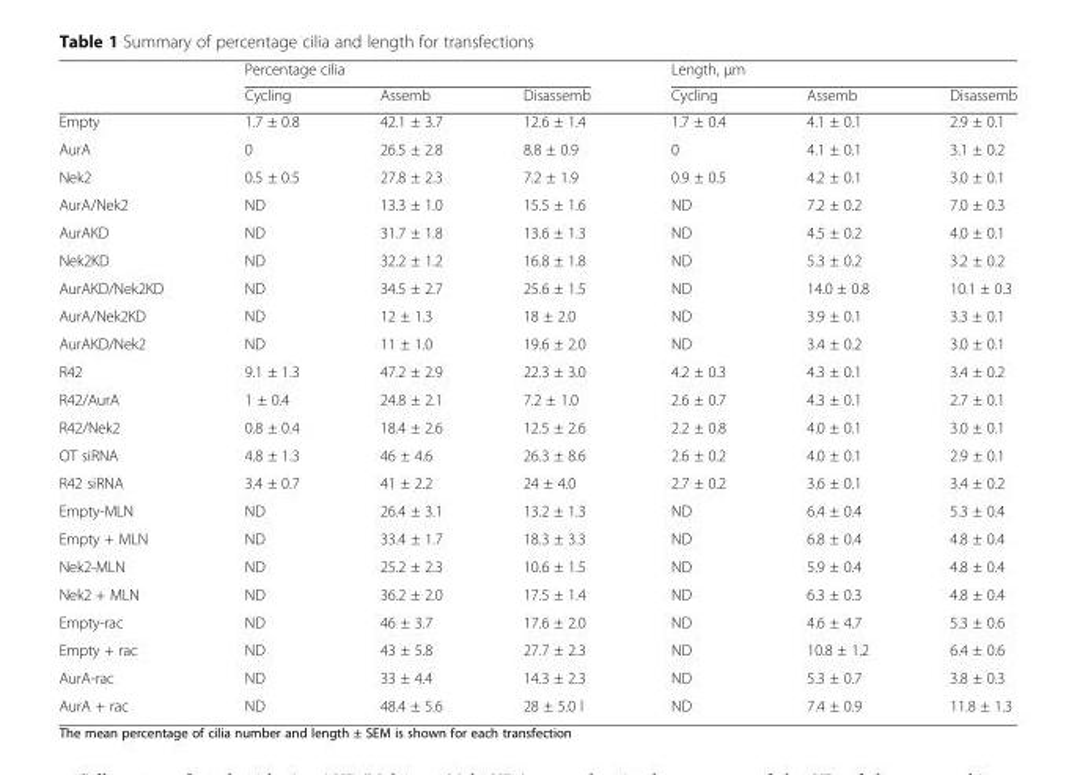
<table><thead><tr><td rowspan="2"></td><td colspan="3">Percentage cilia</td><td colspan="3">Length, μm</td></tr><tr><td>Cycling</td><td>Assemb</td><td>Disassemb</td><td>Cycling</td><td>Assemb</td><td>Disassemb</td></tr></thead><tbody><tr><td>Empty</td><td>1.7 ± 0.8</td><td>42.1 ± 3.7</td><td>12.6 ± 1.4</td><td>1.7 ± 0.4</td><td>4.1 ± 0.1</td><td>2.9 ± 0.1</td></tr><tr><td>AurA</td><td>0</td><td>26.5 ± 2.8</td><td>8.8 ± 0.9</td><td>0</td><td>4.1 ± 0.1</td><td>3.1 ± 0.2</td></tr><tr><td>Nek2</td><td>0.5 ± 0.5</td><td>27.8 ± 2.3</td><td>7.2 ± 1.9</td><td>0.9 ± 0.5</td><td>4.2 ± 0.1</td><td>3.0 ± 0.1</td></tr><tr><td>AurA/Nek2</td><td>ND</td><td>13.3 ± 1.0</td><td>15.5 ± 1.6</td><td>ND</td><td>7.2 ± 0.2</td><td>7.0 ± 0.3</td></tr><tr><td>AurAKD</td><td>ND</td><td>31.7 ± 1.8</td><td>13.6 ± 1.3</td><td>ND</td><td>4.5 ± 0.2</td><td>4.0 ± 0.1</td></tr><tr><td>Nek2KD</td><td>ND</td><td>32.2 ± 1.2</td><td>16.8 ± 1.8</td><td>ND</td><td>5.3 ± 0.2</td><td>3.2 ± 0.2</td></tr><tr><td>AurAKD/Nek2KD</td><td>ND</td><td>34.5 ± 2.7</td><td>25.6 ± 1.5</td><td>ND</td><td>14.0 ± 0.8</td><td>10.1 ± 0.3</td></tr><tr><td>AurA/Nek2KD</td><td>ND</td><td>12 ± 1.3</td><td>18 ± 2.0</td><td>ND</td><td>3.9 ± 0.1</td><td>3.3 ± 0.1</td></tr><tr><td>AurAKD/Nek2</td><td>ND</td><td>11 ± 1.0</td><td>19.6 ± 2.0</td><td>ND</td><td>3.4 ± 0.2</td><td>3.0 ± 0.1</td></tr><tr><td>R42</td><td>9.1 ± 1.3</td><td>47.2 ± 2.9</td><td>22.3 ± 3.0</td><td>4.2 ± 0.3</td><td>4.3 ± 0.1</td><td>3.4 ± 0.2</td></tr><tr><td>R42/AurA</td><td>1 ± 0.4</td><td>24.8 ± 2.1</td><td>7.2 ± 1.0</td><td>2.6 ± 0.7</td><td>4.3 ± 0.1</td><td>2.7 ± 0.1</td></tr><tr><td>R42/Nek2</td><td>0.8 ± 0.4</td><td>18.4 ± 2.6</td><td>12.5 ± 2.6</td><td>2.2 ± 0.8</td><td>4.0 ± 0.1</td><td>3.0 ± 0.1</td></tr><tr><td>OT siRNA</td><td>4.8 ± 1.3</td><td>46 ± 4.6</td><td>26.3 ± 8.6</td><td>2.6 ± 0.2</td><td>4.0 ± 0.1</td><td>2.9 ± 0.1</td></tr><tr><td>R42 siRNA</td><td>3.4 ± 0.7</td><td>41 ± 2.2</td><td>24 ± 4.0</td><td>2.7 ± 0.2</td><td>3.6 ± 0.1</td><td>3.4 ± 0.2</td></tr><tr><td>Empty-MLN</td><td>ND</td><td>26.4 ± 3.1</td><td>13.2 ± 1.3</td><td>ND</td><td>6.4 ± 0.4</td><td>5.3 ± 0.4</td></tr><tr><td>Empty + MLN</td><td>ND</td><td>33.4 ± 1.7</td><td>18.3 ± 3.3</td><td>ND</td><td>6.8 ± 0.4</td><td>4.8 ± 0.4</td></tr><tr><td>Nek2-MLN</td><td>ND</td><td>25.2 ± 2.3</td><td>10.6 ± 1.5</td><td>ND</td><td>5.9 ± 0.4</td><td>4.8 ± 0.4</td></tr><tr><td>Nek2 + MLN</td><td>ND</td><td>36.2 ± 2.0</td><td>17.5 ± 1.4</td><td>ND</td><td>6.3 ± 0.3</td><td>4.8 ± 0.4</td></tr><tr><td>Empty-rac</td><td>ND</td><td>46 ± 3.7</td><td>17.6 ± 2.0</td><td>ND</td><td>4.6 ± 4.7</td><td>5.3 ± 0.6</td></tr><tr><td>Empty + rac</td><td>ND</td><td>43 ± 5.8</td><td>27.7 ± 2.3</td><td>ND</td><td>10.8 ± 1.2</td><td>6.4 ± 0.6</td></tr><tr><td>AurA-rac</td><td>ND</td><td>33 ± 4.4</td><td>14.3 ± 2.3</td><td>ND</td><td>5.3 ± 0.7</td><td>3.8 ± 0.3</td></tr><tr><td>AurA + rac</td><td>ND</td><td>48.4 ± 5.6</td><td>28 ± 5.0 l</td><td>ND</td><td>7.4 ± 0.9</td><td>11.8 ± 1.3</td></tr></tbody></table>